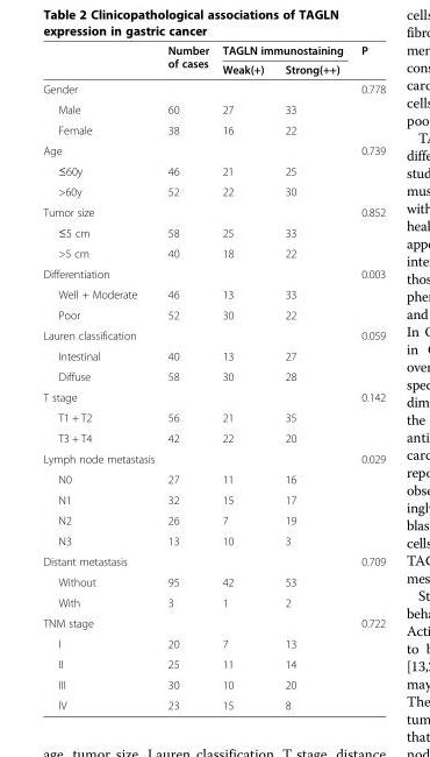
<table><thead><tr><td rowspan="2"></td><td rowspan="2">Number of cases</td><td colspan="2">TAGLN immunostaining</td><td rowspan="2">P</td></tr><tr><td>Weak(+)</td><td>Strong(++)</td></tr></thead><tbody><tr><td>Gender</td><td></td><td></td><td></td><td>0.778</td></tr><tr><td>Male</td><td>60</td><td>27</td><td>33</td><td></td></tr><tr><td>Female</td><td>38</td><td>16</td><td>22</td><td></td></tr><tr><td>Age</td><td></td><td></td><td></td><td>0.739</td></tr><tr><td>≤60y</td><td>46</td><td>21</td><td>25</td><td></td></tr><tr><td>&gt;60y</td><td>52</td><td>22</td><td>30</td><td></td></tr><tr><td>Tumor size</td><td></td><td></td><td></td><td>0.852</td></tr><tr><td>≤5 cm</td><td>58</td><td>25</td><td>33</td><td></td></tr><tr><td>&gt;5 cm</td><td>40</td><td>18</td><td>22</td><td></td></tr><tr><td>Differentiation</td><td></td><td></td><td></td><td>0.003</td></tr><tr><td>Well + Moderate</td><td>46</td><td>13</td><td>33</td><td></td></tr><tr><td>Poor</td><td>52</td><td>30</td><td>22</td><td></td></tr><tr><td>Lauren classification</td><td></td><td></td><td></td><td>0.059</td></tr><tr><td>Intestinal</td><td>40</td><td>13</td><td>27</td><td></td></tr><tr><td>Diffuse</td><td>58</td><td>30</td><td>28</td><td></td></tr><tr><td>T stage</td><td></td><td></td><td></td><td>0.142</td></tr><tr><td>T1 + T2</td><td>56</td><td>21</td><td>35</td><td></td></tr><tr><td>T3 + T4</td><td>42</td><td>22</td><td>20</td><td></td></tr><tr><td>Lymph node metastasis</td><td></td><td></td><td></td><td>0.029</td></tr><tr><td>N0</td><td>27</td><td>11</td><td>16</td><td></td></tr><tr><td>N1</td><td>32</td><td>15</td><td>17</td><td></td></tr><tr><td>N2</td><td>26</td><td>7</td><td>19</td><td></td></tr><tr><td>N3</td><td>13</td><td>10</td><td>3</td><td></td></tr><tr><td>Distant metastasis</td><td></td><td></td><td></td><td>0.709</td></tr><tr><td>Without</td><td>95</td><td>42</td><td>53</td><td></td></tr><tr><td>With</td><td>3</td><td>1</td><td>2</td><td></td></tr><tr><td>TNM stage</td><td></td><td></td><td></td><td>0.722</td></tr><tr><td>I</td><td>20</td><td>7</td><td>13</td><td></td></tr><tr><td>II</td><td>25</td><td>11</td><td>14</td><td></td></tr><tr><td>III</td><td>30</td><td>10</td><td>20</td><td></td></tr><tr><td>IV</td><td>23</td><td>15</td><td>8</td><td></td></tr></tbody></table>